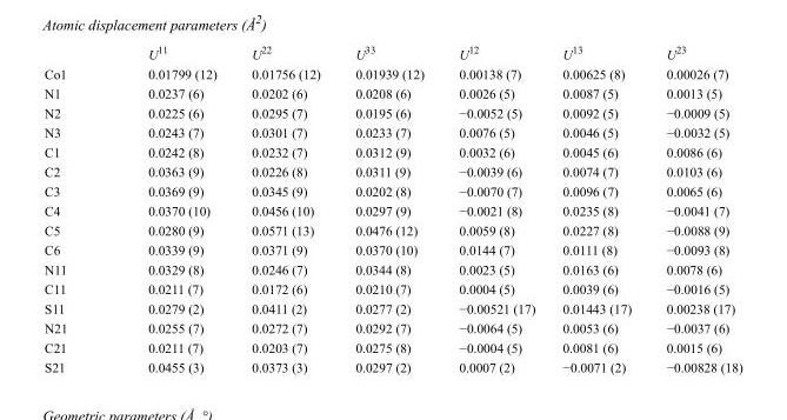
<table><thead><tr><td></td><td>U<sup>11</sup></td><td>U<sup>22</sup></td><td>U<sup>33</sup></td><td>U<sup>12</sup></td><td>U<sup>13</sup></td><td>U<sup>23</sup></td></tr></thead><tbody><tr><td>Co1</td><td>0.01799 (12)</td><td>0.01756 (12)</td><td>0.01939 (12)</td><td>0.00138 (7)</td><td>0.00625 (8)</td><td>0.00026 (7)</td></tr><tr><td>N1</td><td>0.0237 (6)</td><td>0.0202 (6)</td><td>0.0208 (6)</td><td>0.0026 (5)</td><td>0.0087 (5)</td><td>0.0013 (5)</td></tr><tr><td>N2</td><td>0.0225 (6)</td><td>0.0295 (7)</td><td>0.0195 (6)</td><td>−0.0052 (5)</td><td>0.0092 (5)</td><td>−0.0009 (5)</td></tr><tr><td>N3</td><td>0.0243 (7)</td><td>0.0301 (7)</td><td>0.0233 (7)</td><td>0.0076 (5)</td><td>0.0046 (5)</td><td>−0.0032 (5)</td></tr><tr><td>C1</td><td>0.0242 (8)</td><td>0.0232 (7)</td><td>0.0312 (9)</td><td>0.0032 (6)</td><td>0.0045 (6)</td><td>0.0086 (6)</td></tr><tr><td>C2</td><td>0.0363 (9)</td><td>0.0226 (8)</td><td>0.0311 (9)</td><td>−0.0039 (6)</td><td>0.0074 (7)</td><td>0.0103 (6)</td></tr><tr><td>C3</td><td>0.0369 (9)</td><td>0.0345 (9)</td><td>0.0202 (8)</td><td>−0.0070 (7)</td><td>0.0096 (7)</td><td>0.0065 (6)</td></tr><tr><td>C4</td><td>0.0370 (10)</td><td>0.0456 (10)</td><td>0.0297 (9)</td><td>−0.0021 (8)</td><td>0.0235 (8)</td><td>−0.0041 (7)</td></tr><tr><td>C5</td><td>0.0280 (9)</td><td>0.0571 (13)</td><td>0.0476 (12)</td><td>0.0059 (8)</td><td>0.0227 (8)</td><td>−0.0088 (9)</td></tr><tr><td>C6</td><td>0.0339 (9)</td><td>0.0371 (9)</td><td>0.0370 (10)</td><td>0.0144 (7)</td><td>0.0111 (8)</td><td>−0.0093 (8)</td></tr><tr><td>N11</td><td>0.0329 (8)</td><td>0.0246 (7)</td><td>0.0344 (8)</td><td>0.0023 (5)</td><td>0.0163 (6)</td><td>0.0078 (6)</td></tr><tr><td>C11</td><td>0.0211 (7)</td><td>0.0172 (6)</td><td>0.0210 (7)</td><td>0.0004 (5)</td><td>0.0039 (6)</td><td>−0.0016 (5)</td></tr><tr><td>S11</td><td>0.0279 (2)</td><td>0.0411 (2)</td><td>0.0277 (2)</td><td>−0.00521 (17)</td><td>0.01443 (17)</td><td>0.00238 (17)</td></tr><tr><td>N21</td><td>0.0255 (7)</td><td>0.0272 (7)</td><td>0.0292 (7)</td><td>−0.0064 (5)</td><td>0.0053 (6)</td><td>−0.0037 (6)</td></tr><tr><td>C21</td><td>0.0211 (7)</td><td>0.0203 (7)</td><td>0.0275 (8)</td><td>−0.0004 (5)</td><td>0.0081 (6)</td><td>0.0015 (6)</td></tr><tr><td>S21</td><td>0.0455 (3)</td><td>0.0373 (3)</td><td>0.0297 (2)</td><td>0.0007 (2)</td><td>−0.0071 (2)</td><td>−0.00828 (18)</td></tr></tbody></table>